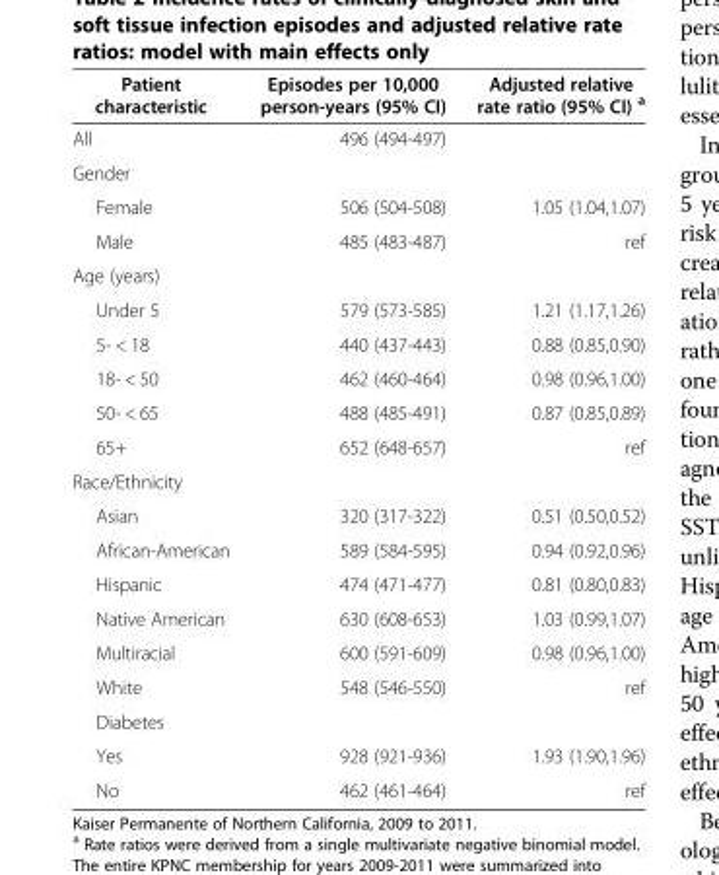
<table><thead><tr><td>Patient characteristic</td><td>Episodes per 10,000 person-years (95% CI)</td><td>Adjusted relative rate ratio (95% CI) <sup>a</sup></td></tr></thead><tbody><tr><td>All</td><td>496 (494-497)</td><td></td></tr><tr><td colspan="3">Gender</td></tr><tr><td>Female</td><td>506 (504-508)</td><td>1.05 (1.04,1.07)</td></tr><tr><td>Male</td><td>485 (483-487)</td><td>ref</td></tr><tr><td colspan="3">Age (years)</td></tr><tr><td>Under 5</td><td>579 (573-585)</td><td>1.21 (1.17,1.26)</td></tr><tr><td>5- &lt; 18</td><td>440 (437-443)</td><td>0.88 (0.85,0.90)</td></tr><tr><td>18- &lt; 50</td><td>462 (460-464)</td><td>0.98 (0.96,1.00)</td></tr><tr><td>50- &lt; 65</td><td>488 (485-491)</td><td>0.87 (0.85,0.89)</td></tr><tr><td>65+</td><td>652 (648-657)</td><td>ref</td></tr><tr><td colspan="3">Race/Ethnicity</td></tr><tr><td>Asian</td><td>320 (317-322)</td><td>0.51 (0.50,0.52)</td></tr><tr><td>African-American</td><td>589 (584-595)</td><td>0.94 (0.92,0.96)</td></tr><tr><td>Hispanic</td><td>474 (471-477)</td><td>0.81 (0.80,0.83)</td></tr><tr><td>Native American</td><td>630 (608-653)</td><td>1.03 (0.99,1.07)</td></tr><tr><td>Multiracial</td><td>600 (591-609)</td><td>0.98 (0.96,1.00)</td></tr><tr><td>White</td><td>548 (546-550)</td><td>ref</td></tr><tr><td colspan="3">Diabetes</td></tr><tr><td>Yes</td><td>928 (921-936)</td><td>1.93 (1.90,1.96)</td></tr><tr><td>No</td><td>462 (461-464)</td><td>ref</td></tr></tbody></table>